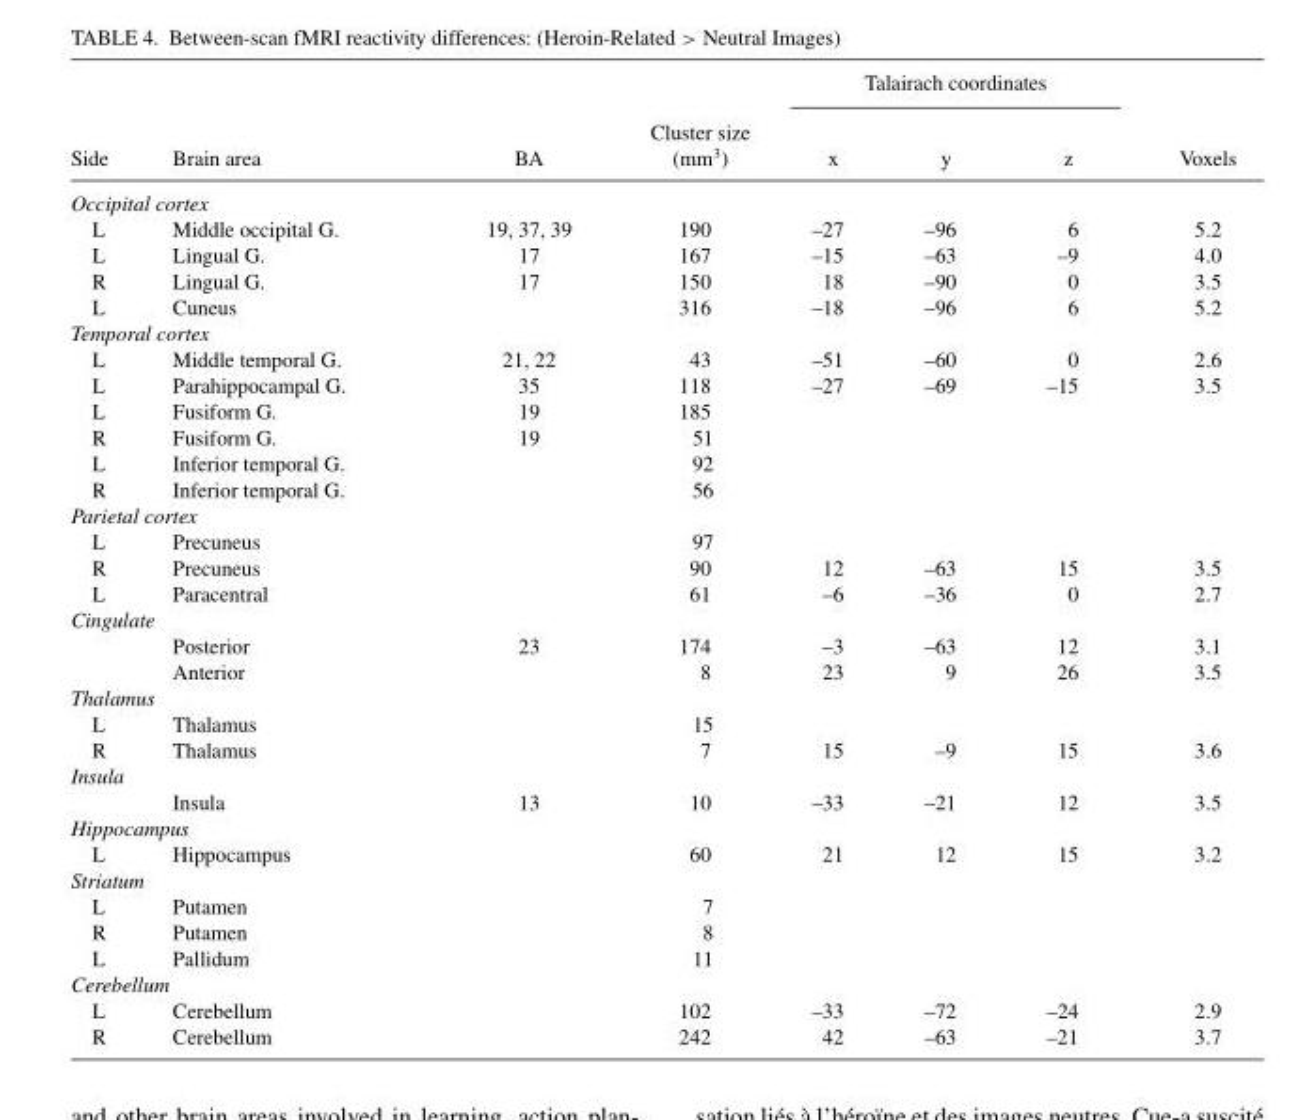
<table><thead><tr><td rowspan="2">Side</td><td rowspan="2">Brain area</td><td rowspan="2">BA</td><td rowspan="2">Cluster size (mm<sup>3</sup>)</td><td colspan="3">Talairach coordinates</td><td rowspan="2">Voxels</td></tr><tr><td>x</td><td>y</td><td>z</td></tr></thead><tbody><tr><td colspan="8">Occipital cortex</td></tr><tr><td>L</td><td>Middle occipital G.</td><td>19, 37, 39</td><td>190</td><td>–27</td><td>–96</td><td>6</td><td>5.2</td></tr><tr><td>L</td><td>Lingual G.</td><td>17</td><td>167</td><td>–15</td><td>–63</td><td>–9</td><td>4.0</td></tr><tr><td>R</td><td>Lingual G.</td><td>17</td><td>150</td><td>18</td><td>–90</td><td>0</td><td>3.5</td></tr><tr><td>L</td><td>Cuneus</td><td></td><td>316</td><td>–18</td><td>–96</td><td>6</td><td>5.2</td></tr><tr><td colspan="8">Temporal cortex</td></tr><tr><td>L</td><td>Middle temporal G.</td><td>21, 22</td><td>43</td><td>–51</td><td>–60</td><td>0</td><td>2.6</td></tr><tr><td>L</td><td>Parahippocampal G.</td><td>35</td><td>118</td><td>–27</td><td>–69</td><td>–15</td><td>3.5</td></tr><tr><td>L</td><td>Fusiform G.</td><td>19</td><td>185</td><td></td><td></td><td></td><td></td></tr><tr><td>R</td><td>Fusiform G.</td><td>19</td><td>51</td><td></td><td></td><td></td><td></td></tr><tr><td>L</td><td>Inferior temporal G.</td><td></td><td>92</td><td></td><td></td><td></td><td></td></tr><tr><td>R</td><td>Inferior temporal G.</td><td></td><td>56</td><td></td><td></td><td></td><td></td></tr><tr><td colspan="8">Parietal cortex</td></tr><tr><td>L</td><td>Precuneus</td><td></td><td>97</td><td></td><td></td><td></td><td></td></tr><tr><td>R</td><td>Precuneus</td><td></td><td>90</td><td>12</td><td>–63</td><td>15</td><td>3.5</td></tr><tr><td>L</td><td>Paracentral</td><td></td><td>61</td><td>–6</td><td>–36</td><td>0</td><td>2.7</td></tr><tr><td colspan="8">Cingulate</td></tr><tr><td></td><td>Posterior</td><td>23</td><td>174</td><td>–3</td><td>–63</td><td>12</td><td>3.1</td></tr><tr><td></td><td>Anterior</td><td></td><td>8</td><td>23</td><td>9</td><td>26</td><td>3.5</td></tr><tr><td colspan="8">Thalamus</td></tr><tr><td>L</td><td>Thalamus</td><td></td><td>15</td><td></td><td></td><td></td><td></td></tr><tr><td>R</td><td>Thalamus</td><td></td><td>7</td><td>15</td><td>–9</td><td>15</td><td>3.6</td></tr><tr><td colspan="8">Insula</td></tr><tr><td></td><td>Insula</td><td>13</td><td>10</td><td>–33</td><td>–21</td><td>12</td><td>3.5</td></tr><tr><td colspan="8">Hippocampus</td></tr><tr><td>L</td><td>Hippocampus</td><td></td><td>60</td><td>21</td><td>12</td><td>15</td><td>3.2</td></tr><tr><td colspan="8">Striatum</td></tr><tr><td>L</td><td>Putamen</td><td></td><td>7</td><td></td><td></td><td></td><td></td></tr><tr><td>R</td><td>Putamen</td><td></td><td>8</td><td></td><td></td><td></td><td></td></tr><tr><td>L</td><td>Pallidum</td><td></td><td>11</td><td></td><td></td><td></td><td></td></tr><tr><td colspan="8">Cerebellum</td></tr><tr><td>L</td><td>Cerebellum</td><td></td><td>102</td><td>–33</td><td>–72</td><td>–24</td><td>2.9</td></tr><tr><td>R</td><td>Cerebellum</td><td></td><td>242</td><td>42</td><td>–63</td><td>–21</td><td>3.7</td></tr></tbody></table>